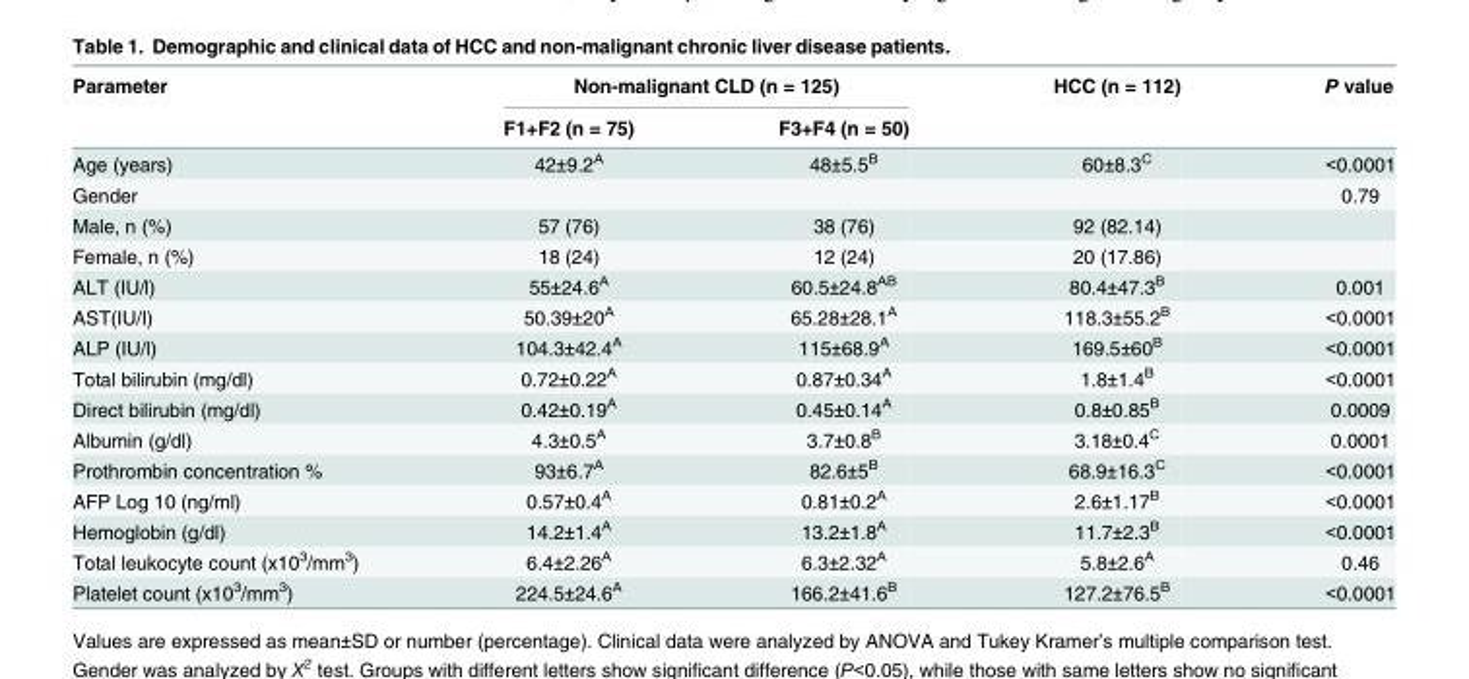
<table><thead><tr><td rowspan="2">Parameter</td><td colspan="2">Non-malignant CLD (n = 125)</td><td rowspan="2">HCC (n = 112)</td><td rowspan="2">P value</td></tr><tr><td>F1+F2 (n = 75)</td><td>F3+F4 (n = 50)</td></tr></thead><tbody><tr><td>Age (years)</td><td>42±9.2<sup>A</sup></td><td>48±5.5<sup>B</sup></td><td>60±8.3<sup>C</sup></td><td>&lt;0.0001</td></tr><tr><td>Gender</td><td></td><td></td><td></td><td>0.79</td></tr><tr><td>Male, n (%)</td><td>57 (76)</td><td>38 (76)</td><td>92 (82.14)</td><td></td></tr><tr><td>Female, n (%)</td><td>18 (24)</td><td>12 (24)</td><td>20 (17.86)</td><td></td></tr><tr><td>ALT (IU/l)</td><td>55±24.6<sup>A</sup></td><td>60.5±24.8<sup>AB</sup></td><td>80.4±47.3<sup>B</sup></td><td>0.001</td></tr><tr><td>AST(IU/I)</td><td>50.39±20<sup>A</sup></td><td>65.28±28.1<sup>A</sup></td><td>118.3±55.2<sup>B</sup></td><td>&lt;0.0001</td></tr><tr><td>ALP (IU/l)</td><td>104.3±42.4<sup>A</sup></td><td>115±68.9<sup>A</sup></td><td>169.5±60<sup>B</sup></td><td>&lt;0.0001</td></tr><tr><td>Total bilirubin (mg/dl)</td><td>0.72±0.22<sup>A</sup></td><td>0.87±0.34<sup>A</sup></td><td>1.8±1.4<sup>B</sup></td><td>&lt;0.0001</td></tr><tr><td>Direct bilirubin (mg/dl)</td><td>0.42±0.19<sup>A</sup></td><td>0.45±0.14<sup>A</sup></td><td>0.8±0.85<sup>B</sup></td><td>0.0009</td></tr><tr><td>Albumin (g/dl)</td><td>4.3±0.5<sup>A</sup></td><td>3.7±0.8<sup>B</sup></td><td>3.18±0.4<sup>C</sup></td><td>0.0001</td></tr><tr><td>Prothrombin concentration %</td><td>93±6.7<sup>A</sup></td><td>82.6±5<sup>B</sup></td><td>68.9±16.3<sup>C</sup></td><td>&lt;0.0001</td></tr><tr><td>AFP Log 10 (ng/ml)</td><td>0.57±0.4<sup>A</sup></td><td>0.81±0.2<sup>A</sup></td><td>2.6±1.17<sup>B</sup></td><td>&lt;0.0001</td></tr><tr><td>Hemoglobin (g/dl)</td><td>14.2±1.4<sup>A</sup></td><td>13.2±1.8<sup>A</sup></td><td>11.7±2.3<sup>B</sup></td><td>&lt;0.0001</td></tr><tr><td>Total leukocyte count (x10<sup>3</sup>/mm<sup>3</sup>)</td><td>6.4±2.26<sup>A</sup></td><td>6.3±2.32<sup>A</sup></td><td>5.8±2.6<sup>A</sup></td><td>0.46</td></tr><tr><td>Platelet count (x10<sup>3</sup>/mm<sup>3</sup>)</td><td>224.5±24.6<sup>A</sup></td><td>166.2±41.6<sup>B</sup></td><td>127.2±76.5<sup>B</sup></td><td>&lt;0.0001</td></tr></tbody></table>